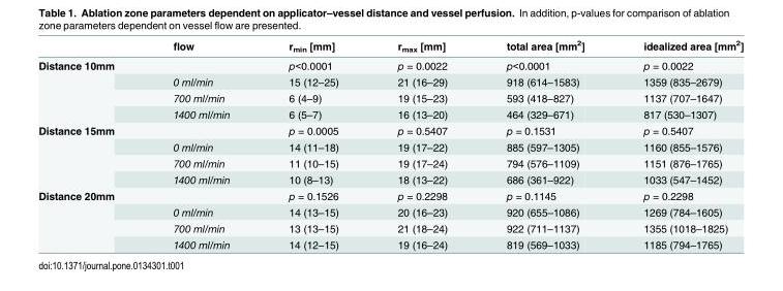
<table><thead><tr><td></td><td>flow</td><td>r<sub>min</sub> [mm]</td><td>r<sub>max</sub> [mm]</td><td>total area [mm<sup>2</sup>]</td><td>idealized area [mm<sup>2</sup>]</td></tr></thead><tbody><tr><td rowspan="4">Distance 10mm</td><td></td><td>p&lt;0.0001</td><td>p = 0.0022</td><td>p&lt;0.0001</td><td>p = 0.0022</td></tr><tr><td>0 ml/min</td><td>15 (12–25)</td><td>21 (16–29)</td><td>918 (614–1583)</td><td>1359 (835–2679)</td></tr><tr><td>700 ml/min</td><td>6 (4–9)</td><td>19 (15–23)</td><td>593 (418–827)</td><td>1137 (707–1647)</td></tr><tr><td>1400 ml/min</td><td>6 (5–7)</td><td>16 (13–20)</td><td>464 (329–671)</td><td>817 (530–1307)</td></tr><tr><td rowspan="4">Distance 15mm</td><td></td><td>p = 0.0005</td><td>p = 0.5407</td><td>p = 0.1531</td><td>p = 0.5407</td></tr><tr><td>0 ml/min</td><td>14 (11–18)</td><td>19 (17–22)</td><td>885 (597–1305)</td><td>1160 (855–1576)</td></tr><tr><td>700 ml/min</td><td>11 (10–15)</td><td>19 (17–24)</td><td>794 (576–1109)</td><td>1151 (876–1765)</td></tr><tr><td>1400 ml/min</td><td>10 (8–13)</td><td>18 (13–22)</td><td>686 (361–922)</td><td>1033 (547–1452)</td></tr><tr><td rowspan="4">Distance 20mm</td><td></td><td>p = 0.1526</td><td>p = 0.2298</td><td>p = 0.1145</td><td>p = 0.2298</td></tr><tr><td>0 ml/min</td><td>14 (13–15)</td><td>20 (16–23)</td><td>920 (655–1086)</td><td>1269 (784–1605)</td></tr><tr><td>700 ml/min</td><td>13 (13–15)</td><td>21 (18–24)</td><td>922 (711–1137)</td><td>1355 (1018–1825)</td></tr><tr><td>1400 ml/min</td><td>14 (12–15)</td><td>19 (16–24)</td><td>819 (569–1033)</td><td>1185 (794–1765)</td></tr></tbody></table>